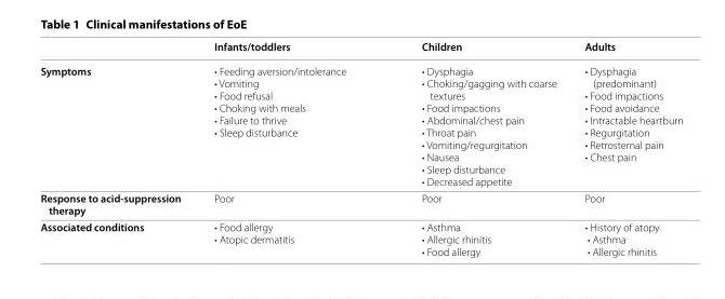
<table><thead><tr><td></td><td>Infants/toddlers</td><td>Children</td><td>Adults</td></tr></thead><tbody><tr><td>Symptoms</td><td>• Feeding aversion/intolerance • Vomiting • Food refusal • Choking with meals • Failure to thrive • Sleep disturbance</td><td>• Dysphagia • Choking/gagging with coarse textures • Food impactions • Abdominal/chest pain • Throat pain • Vomiting/regurgitation • Nausea • Sleep disturbance • Decreased appetite</td><td>• Dysphagia (predominant) • Food impactions • Food avoidance • Intractable heartburn • Regurgitation • Retrosternal pain • Chest pain</td></tr><tr><td>Response to acid-suppression therapy</td><td>Poor</td><td>Poor</td><td>Poor</td></tr><tr><td>Associated conditions</td><td>• Food allergy • Atopic dermatitis</td><td>• Asthma • Allergic rhinitis • Food allergy</td><td>• History of atopy • Asthma • Allergic rhinitis</td></tr></tbody></table>